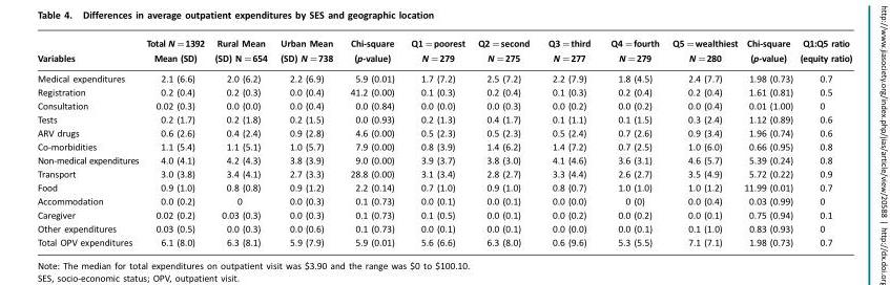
<table><thead><tr><td>Variables</td><td>Total N=1392 Mean (SD)</td><td>Rural Mean (SD) N=654</td><td>Urban Mean (SD) N=738</td><td>Chi-square (p-value)</td><td>Q1=poorest N=279</td><td>Q2=second N=275</td><td>Q3=third N=277</td><td>Q4=fourth N=279</td><td>Q5=wealthiest N=280</td><td>Chi-square (p-value)</td><td>Q1:Q5 ratio (equity ratio)</td></tr></thead><tbody><tr><td>Medical expenditures</td><td>2.1 (6.6)</td><td>2.0 (6.2)</td><td>2.2 (6.9)</td><td>5.9 (0.01)</td><td>1.7 (7.2)</td><td>2.5 (7.2)</td><td>2.2 (7.9)</td><td>1.8 (4.5)</td><td>2.4 (7.7)</td><td>1.98 (0.73)</td><td>0.7</td></tr><tr><td>Registration</td><td>0.2 (0.4)</td><td>0.2 (0.3)</td><td>0.0 (0.4)</td><td>41.2 (0.00)</td><td>0.1 (0.3)</td><td>0.2 (0.4)</td><td>0.1 (0.3)</td><td>0.2 (0.4)</td><td>0.2 (0.4)</td><td>1.61 (0.81)</td><td>0.5</td></tr><tr><td>Consultation</td><td>0.02 (0.3)</td><td>0.0 (0.0)</td><td>0.0 (0.4)</td><td>0.0 (0.84)</td><td>0.0 (0.0)</td><td>0.0 (0.3)</td><td>0.0 (0.2)</td><td>0.0 (0.2)</td><td>0.0 (0.4)</td><td>0.01 (1.00)</td><td>0</td></tr><tr><td>Tests</td><td>0.2 (1.7)</td><td>0.2 (1.8)</td><td>0.2 (1.5)</td><td>0.0 (0.93)</td><td>0.2 (1.3)</td><td>0.4 (1.7)</td><td>0.1 (1.1)</td><td>0.1 (1.5)</td><td>0.3 (2.4)</td><td>1.12 (0.89)</td><td>0.6</td></tr><tr><td>ARV drugs</td><td>0.6 (2.6)</td><td>0.4 (2.4)</td><td>0.9 (2.8)</td><td>4.6 (0.00)</td><td>0.5 (2.3)</td><td>0.5 (2.3)</td><td>0.5 (2.4)</td><td>0.7 (2.6)</td><td>0.9 (3.4)</td><td>1.96 (0.74)</td><td>0.6</td></tr><tr><td>Co-morbidities</td><td>1.1 (5.4)</td><td>1.1 (5.1)</td><td>1.0 (5.7)</td><td>7.9 (0.00)</td><td>0.8 (3.9)</td><td>1.4 (6.2)</td><td>1.4 (7.2)</td><td>0.7 (2.5)</td><td>1.0 (6.0)</td><td>0.66 (0.95)</td><td>0.8</td></tr><tr><td>Non-medical expenditures</td><td>4.0 (4.1)</td><td>4.2 (4.3)</td><td>3.8 (3.9)</td><td>9.0 (0.00)</td><td>3.9 (3.7)</td><td>3.8 (3.0)</td><td>4.1 (4.6)</td><td>3.6 (3.1)</td><td>4.6 (5.7)</td><td>5.39 (0.24)</td><td>0.8</td></tr><tr><td>Transport</td><td>3.0 (3.8)</td><td>3.4 (4.1)</td><td>2.7 (3.3)</td><td>28.8 (0.00)</td><td>3.1 (3.4)</td><td>2.8 (2.7)</td><td>3.3 (4.4)</td><td>2.6 (2.7)</td><td>3.5 (4.9)</td><td>5.72 (0.22)</td><td>0.9</td></tr><tr><td>Food</td><td>0.9 (1.0)</td><td>0.8 (0.8)</td><td>0.9 (1.2)</td><td>2.2 (0.14)</td><td>0.7 (1.0)</td><td>0.9 (1.0)</td><td>0.8 (0.7)</td><td>1.0 (1.0)</td><td>1.0 (1.2)</td><td>11.99 (0.01)</td><td>0.7</td></tr><tr><td>Accommodation</td><td>0.0 (0.2)</td><td>0</td><td>0.0 (0.3)</td><td>0.1 (0.73)</td><td>0.0 (0.1)</td><td>0.0 (0.1)</td><td>0.0 (0.0)</td><td>0 (0)</td><td>0.0 (0.4)</td><td>0.03 (0.99)</td><td>0</td></tr><tr><td>Caregiver</td><td>0.02 (0.2)</td><td>0.03 (0.3)</td><td>0.0 (0.3)</td><td>0.1 (0.73)</td><td>0.1 (0.5)</td><td>0.0 (0.1)</td><td>0.0 (0.2)</td><td>0.0 (0.2)</td><td>0.0 (0.1)</td><td>0.75 (0.94)</td><td>0.1</td></tr><tr><td>Other expenditures</td><td>0.03 (0.5)</td><td>0.0 (0.3)</td><td>0.0 (0.6)</td><td>0.1 (0.73)</td><td>0.0 (0.1)</td><td>0.0 (0.1)</td><td>0.0 (0.0)</td><td>0.0 (0.1)</td><td>0.1 (1.0)</td><td>0.83 (0.93)</td><td>0</td></tr><tr><td>Total OPV expenditures</td><td>6.1 (8.0)</td><td>6.3 (8.1)</td><td>5.9 (7.9)</td><td>5.9 (0.01)</td><td>5.6 (6.6)</td><td>6.3 (8.0)</td><td>0.6 (9.6)</td><td>5.3 (5.5)</td><td>7.1 (7.1)</td><td>1.98 (0.73)</td><td>0.7</td></tr></tbody></table>